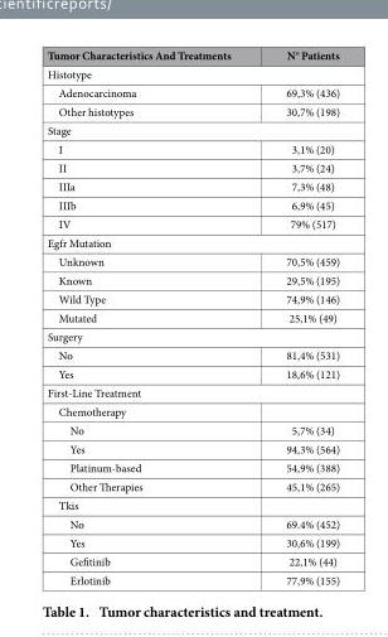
<table><thead><tr><td>Tumor Characteristics And Treatments</td><td>N° Patients</td></tr></thead><tbody><tr><td colspan="2">Histotype</td></tr><tr><td>Adenocarcinoma</td><td>69,3% (436)</td></tr><tr><td>Other histotypes</td><td>30,7% (198)</td></tr><tr><td colspan="2">Stage</td></tr><tr><td>I</td><td>3,1% (20)</td></tr><tr><td>II</td><td>3,7% (24)</td></tr><tr><td>IIIa</td><td>7,3% (48)</td></tr><tr><td>IIIb</td><td>6,9% (45)</td></tr><tr><td>IV</td><td>79% (517)</td></tr><tr><td colspan="2">Egfr Mutation</td></tr><tr><td>Unknown</td><td>70,5% (459)</td></tr><tr><td>Known</td><td>29,5% (195)</td></tr><tr><td>Wild Type</td><td>74,9% (146)</td></tr><tr><td>Mutated</td><td>25,1% (49)</td></tr><tr><td colspan="2">Surgery</td></tr><tr><td>No</td><td>81,4% (531)</td></tr><tr><td>Yes</td><td>18,6% (121)</td></tr><tr><td colspan="2">First-Line Treatment</td></tr><tr><td colspan="2">Chemotherapy</td></tr><tr><td>No</td><td>5,7% (34)</td></tr><tr><td>Yes</td><td>94,3% (564)</td></tr><tr><td>Platinum-based</td><td>54,9% (388)</td></tr><tr><td>Other Therapies</td><td>45,1% (265)</td></tr><tr><td colspan="2">Tkis</td></tr><tr><td>No</td><td>69.4% (452)</td></tr><tr><td>Yes</td><td>30,6% (199)</td></tr><tr><td>Gefitinib</td><td>22,1% (44)</td></tr><tr><td>Erlotinib</td><td>77,9% (155)</td></tr></tbody></table>